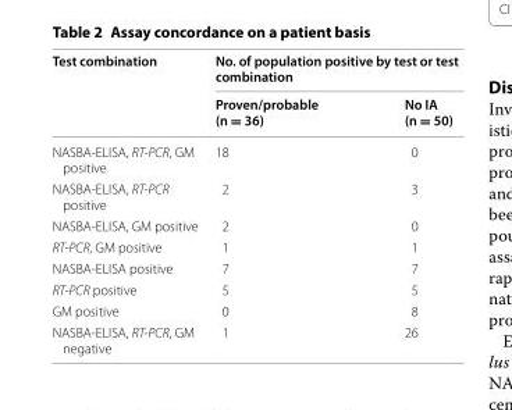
<table><thead><tr><td rowspan="2">Test combination</td><td colspan="2">No. of population positive by test or test combination</td></tr><tr><td>Proven/probable (n = 36)</td><td>No IA (n = 50)</td></tr></thead><tbody><tr><td>NASBA-ELISA, RT-PCR, GM positive</td><td>18</td><td>0</td></tr><tr><td>NASBA-ELISA, RT-PCR positive</td><td>2</td><td>3</td></tr><tr><td>NASBA-ELISA, GM positive</td><td>2</td><td>0</td></tr><tr><td>RT-PCR, GM positive</td><td>1</td><td>1</td></tr><tr><td>NASBA-ELISA positive</td><td>7</td><td>7</td></tr><tr><td>RT-PCR positive</td><td>5</td><td>5</td></tr><tr><td>GM positive</td><td>0</td><td>8</td></tr><tr><td>NASBA-ELISA, RT-PCR, GM negative</td><td>1</td><td>26</td></tr></tbody></table>